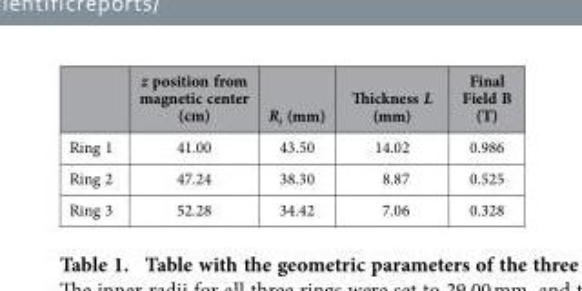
<table><thead><tr><td></td><td>z position from magnetic center (cm)</td><td>R<sub>i</sub> (mm)</td><td>Thickness L (mm)</td><td>Final Field B (T)</td></tr></thead><tbody><tr><td>Ring 1</td><td>41.00</td><td>43.50</td><td>14.02</td><td>0.986</td></tr><tr><td>Ring 2</td><td>47.24</td><td>38.30</td><td>8.87</td><td>0.525</td></tr><tr><td>Ring 3</td><td>52.28</td><td>34.42</td><td>7.06</td><td>0.328</td></tr></tbody></table>